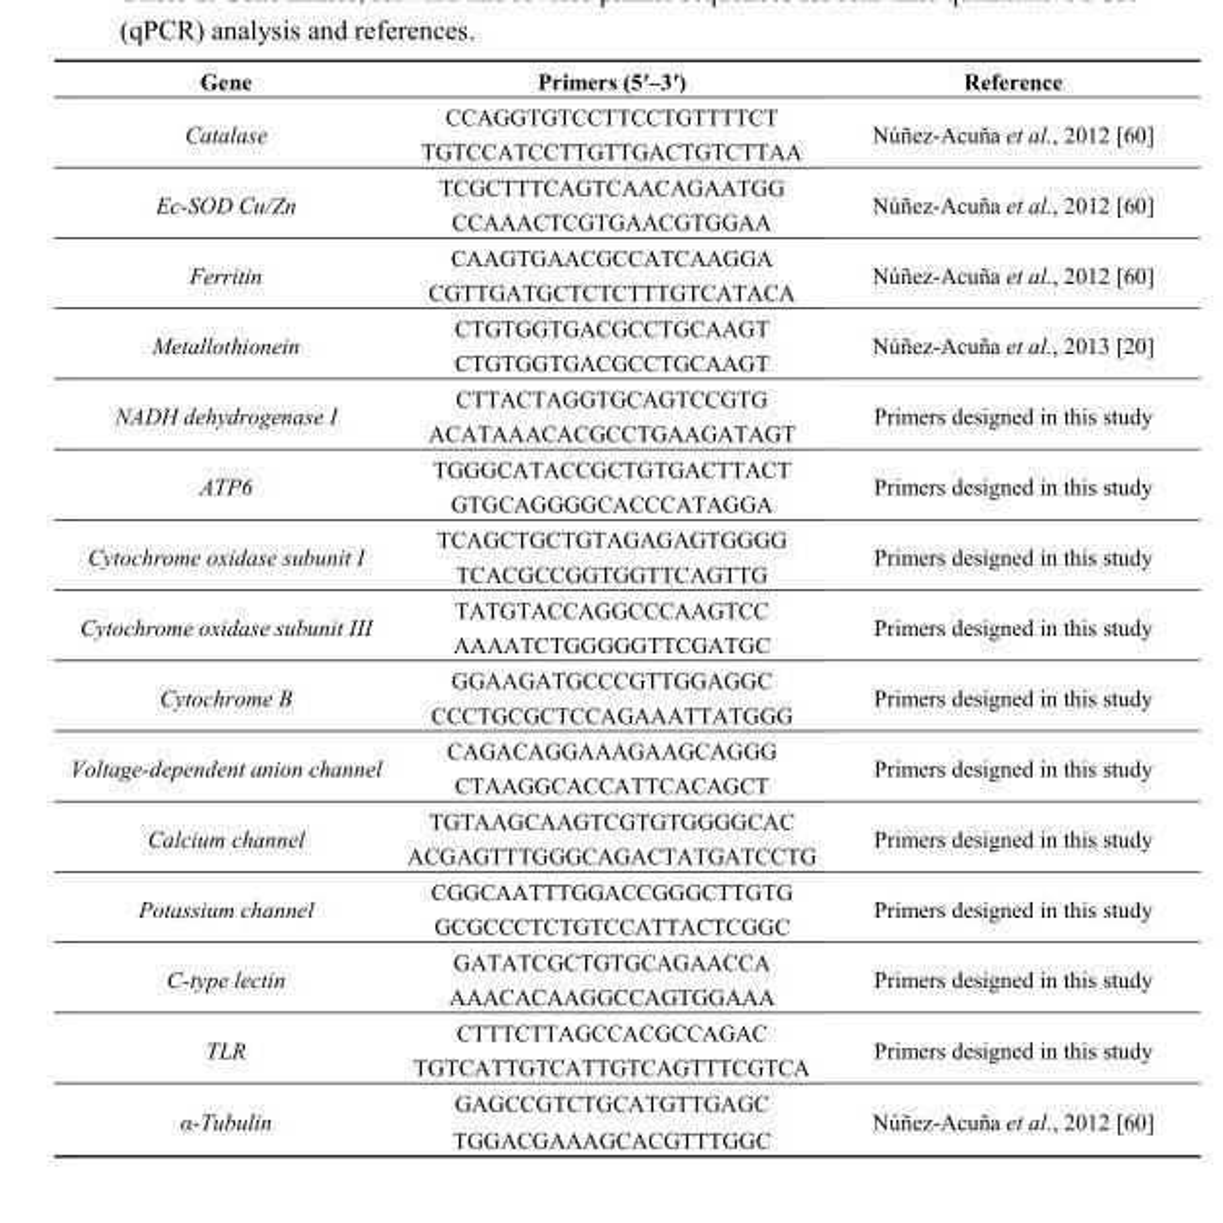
<table><thead><tr><td>Gene</td><td>Primers (5ʹ–3ʹ)</td><td>Reference</td></tr></thead><tbody><tr><td rowspan="2">Catalase</td><td>CCAGGTGTCCTTCCTGTTTTCT</td><td rowspan="2">Núñez-Acuña et al., 2012 [60]</td></tr><tr><td>TGTCCATCCTTGTTGACTGTCTTAA</td></tr><tr><td rowspan="2">Ec-SOD Cu/Zn</td><td>TCGCTTTCAGTCAACAGAATGG</td><td rowspan="2">Núñez-Acuña et al., 2012 [60]</td></tr><tr><td>CCAAACTCGTGAACGTGGAA</td></tr><tr><td rowspan="2">Ferritin</td><td>CAAGTGAACGCCATCAAGGA</td><td rowspan="2">Núñez-Acuña et al., 2012 [60]</td></tr><tr><td>CGTTGATGCTCTCTTTGTCATACA</td></tr><tr><td rowspan="2">Metallothionein</td><td>CTGTGGTGACGCCTGCAAGT</td><td rowspan="2">Núñez-Acuña et al., 2013 [20]</td></tr><tr><td>CTGTGGTGACGCCTGCAAGT</td></tr><tr><td rowspan="2">NADH dehydrogenase I</td><td>CTTACTAGGTGCAGTCCGTG</td><td rowspan="2">Primers designed in this study</td></tr><tr><td>ACATAAACACGCCTGAAGATAGT</td></tr><tr><td rowspan="2">ATP6</td><td>TGGGCATACCGCTGTGACTTACT</td><td rowspan="2">Primers designed in this study</td></tr><tr><td>GTGCAGGGGCACCCATAGGA</td></tr><tr><td rowspan="2">Cytochrome oxidase subunit I</td><td>TCAGCTGCTGTAGAGAGTGGGG</td><td rowspan="2">Primers designed in this study</td></tr><tr><td>TCACGCCGGTGGTTCAGTTG</td></tr><tr><td rowspan="2">Cytochrome oxidase subunit III</td><td>TATGTACCAGGCCCAAGTCC</td><td rowspan="2">Primers designed in this study</td></tr><tr><td>AAAATCTGGGGGTTCGATGC</td></tr><tr><td rowspan="2">Cytochrome B</td><td>GGAAGATGCCCGTTGGAGGC</td><td rowspan="2">Primers designed in this study</td></tr><tr><td>CCCTGCGCTCCAGAAATTATGGG</td></tr><tr><td rowspan="2">Voltage-dependent anion channel</td><td>CAGACAGGAAAGAAGCAGGG</td><td rowspan="2">Primers designed in this study</td></tr><tr><td>CTAAGGCACCATTCACAGCT</td></tr><tr><td rowspan="2">Calcium channel</td><td>TGTAAGCAAGTCGTGTGGGGCAC</td><td rowspan="2">Primers designed in this study</td></tr><tr><td>ACGAGTTTGGGCAGACTATGATCCTG</td></tr><tr><td rowspan="2">Potassium channel</td><td>CGGCAATTTGGACCGGGCTTGTG</td><td rowspan="2">Primers designed in this study</td></tr><tr><td>GCGCCCTCTGTCCATTACTCGGC</td></tr><tr><td rowspan="2">C-type lectin</td><td>GATATCGCTGTGCAGAACCA</td><td rowspan="2">Primers designed in this study</td></tr><tr><td>AAACACAAGGCCAGTGGAAA</td></tr><tr><td rowspan="2">TLR</td><td>CTTTCTTAGCCACGCCAGAC</td><td rowspan="2">Primers designed in this study</td></tr><tr><td>TGTCATTGTCATTGTCAGTTTCGTCA</td></tr><tr><td rowspan="2">α-Tubulin</td><td>GAGCCGTCTGCATGTTGAGC</td><td rowspan="2">Núñez-Acuña et al., 2012 [60]</td></tr><tr><td>TGGACGAAAGCACGTTTGGC</td></tr></tbody></table>